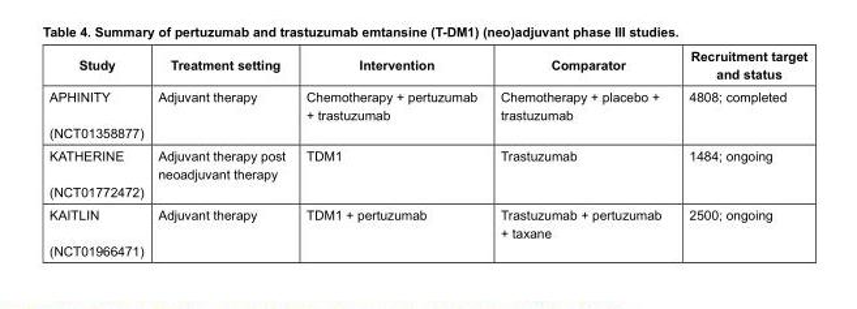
<table><thead><tr><td>Study</td><td>Treatment setting</td><td>Intervention</td><td>Comparator</td><td>Recruitment target and status</td></tr></thead><tbody><tr><td>APHINITY (NCT01358877)</td><td>Adjuvant therapy</td><td>Chemotherapy + pertuzumab + trastuzumab</td><td>Chemotherapy + placebo + trastuzumab</td><td>4808; completed</td></tr><tr><td>KATHERINE (NCT01772472)</td><td>Adjuvant therapy post neoadjuvant therapy</td><td>TDM1</td><td>Trastuzumab</td><td>1484; ongoing</td></tr><tr><td>KAITLIN (NCT01966471)</td><td>Adjuvant therapy</td><td>TDM1 + pertuzumab</td><td>Trastuzumab + pertuzumab + taxane</td><td>2500; ongoing</td></tr></tbody></table>